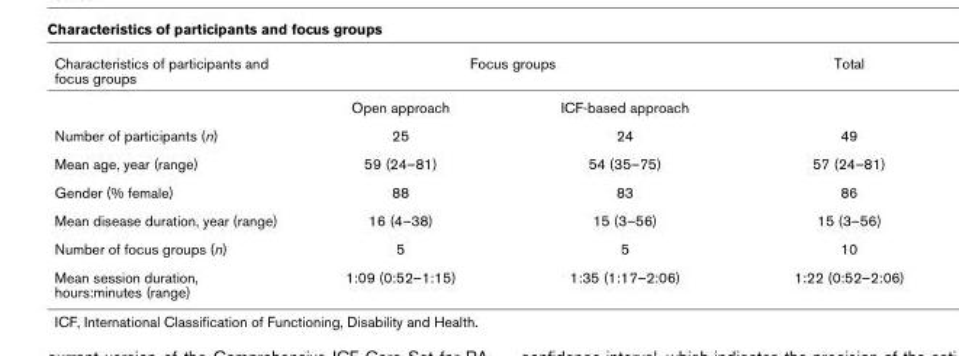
<table><thead><tr><td rowspan="2">Characteristics of participants and focus groups</td><td colspan="2">Focus groups</td><td rowspan="2">Total</td></tr><tr><td>Open approach</td><td>ICF-based approach</td></tr></thead><tbody><tr><td>Number of participants (n)</td><td>25</td><td>24</td><td>49</td></tr><tr><td>Mean age, year (range)</td><td>59 (24–81)</td><td>54 (35–75)</td><td>57 (24–81)</td></tr><tr><td>Gender (% female)</td><td>88</td><td>83</td><td>86</td></tr><tr><td>Mean disease duration, year (range)</td><td>16 (4–38)</td><td>15 (3–56)</td><td>15 (3–56)</td></tr><tr><td>Number of focus groups (n)</td><td>5</td><td>5</td><td>10</td></tr><tr><td>Mean session duration, hours:minutes (range)</td><td>1:09 (0:52–1:15)</td><td>1:35 (1:17–2:06)</td><td>1:22 (0:52–2:06)</td></tr></tbody></table>